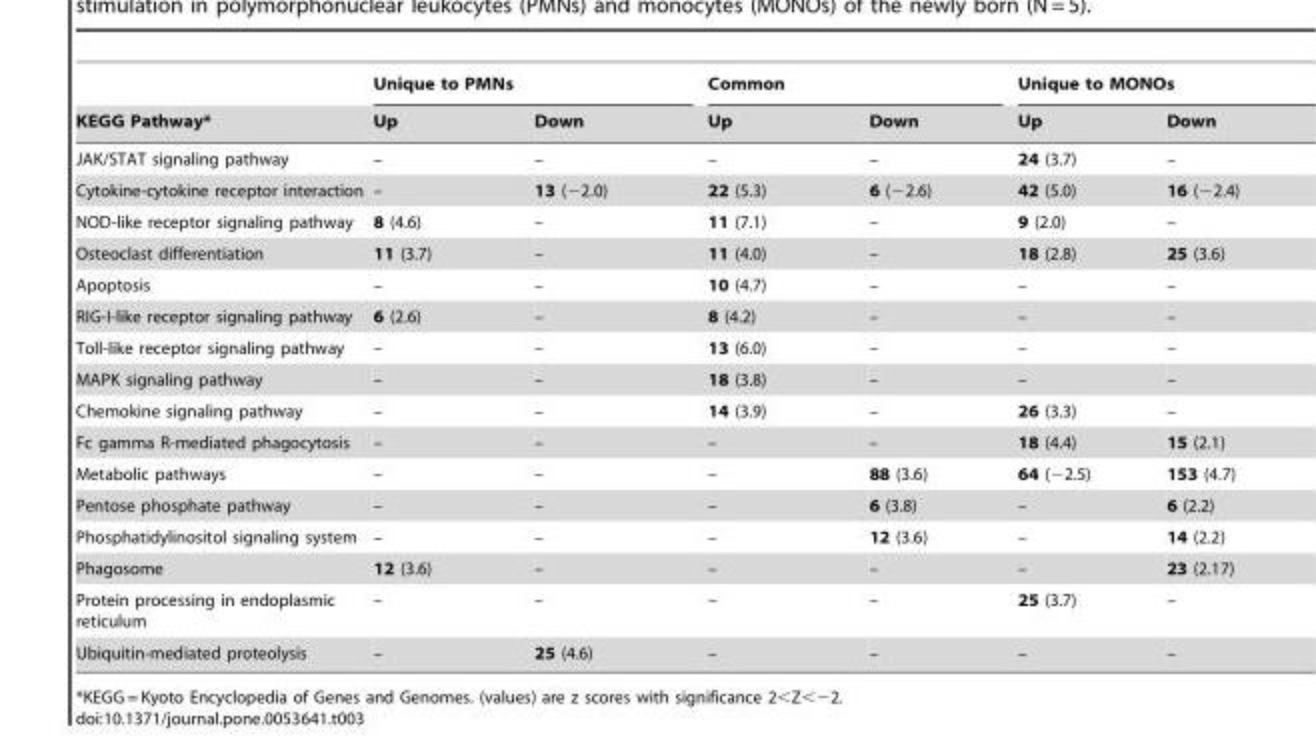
<table><thead><tr><td rowspan="2">KEGG Pathway*</td><td colspan="2">Unique to PMNs</td><td colspan="2">Common</td><td colspan="2">Unique to MONOs</td></tr><tr><td>Up</td><td>Down</td><td>Up</td><td>Down</td><td>Up</td><td>Down</td></tr></thead><tbody><tr><td>JAK/STAT signaling pathway</td><td>–</td><td>–</td><td>–</td><td>–</td><td>24 (3.7)</td><td>–</td></tr><tr><td>Cytokine-cytokine receptor interaction</td><td>–</td><td>13 (−2.0)</td><td>22 (5.3)</td><td>6 (−2.6)</td><td>42 (5.0)</td><td>16 (−2.4)</td></tr><tr><td>NOD-like receptor signaling pathway</td><td>8 (4.6)</td><td>–</td><td>11 (7.1)</td><td>–</td><td>9 (2.0)</td><td>–</td></tr><tr><td>Osteoclast differentiation</td><td>11 (3.7)</td><td>–</td><td>11 (4.0)</td><td>–</td><td>18 (2.8)</td><td>25 (3.6)</td></tr><tr><td>Apoptosis</td><td>–</td><td>–</td><td>10 (4.7)</td><td>–</td><td>–</td><td>–</td></tr><tr><td>RIG-I-like receptor signaling pathway</td><td>6 (2.6)</td><td>–</td><td>8 (4.2)</td><td>–</td><td>–</td><td>–</td></tr><tr><td>Toll-like receptor signaling pathway</td><td>–</td><td>–</td><td>13 (6.0)</td><td>–</td><td>–</td><td>–</td></tr><tr><td>MAPK signaling pathway</td><td>–</td><td>–</td><td>18 (3.8)</td><td>–</td><td>–</td><td>–</td></tr><tr><td>Chemokine signaling pathway</td><td>–</td><td>–</td><td>14 (3.9)</td><td>–</td><td>26 (3.3)</td><td>–</td></tr><tr><td>Fc gamma R-mediated phagocytosis</td><td>–</td><td>–</td><td>–</td><td>–</td><td>18 (4.4)</td><td>15 (2.1)</td></tr><tr><td>Metabolic pathways</td><td>–</td><td>–</td><td>–</td><td>88 (3.6)</td><td>64 (−2.5)</td><td>153 (4.7)</td></tr><tr><td>Pentose phosphate pathway</td><td>–</td><td>–</td><td>–</td><td>6 (3.8)</td><td>–</td><td>6 (2.2)</td></tr><tr><td>Phosphatidylinositol signaling system</td><td>–</td><td>–</td><td>–</td><td>12 (3.6)</td><td>–</td><td>14 (2.2)</td></tr><tr><td>Phagosome</td><td>12 (3.6)</td><td>–</td><td>–</td><td>–</td><td>–</td><td>23 (2.17)</td></tr><tr><td>Protein processing in endoplasmic reticulum</td><td>–</td><td>–</td><td>–</td><td>–</td><td>25 (3.7)</td><td>–</td></tr><tr><td>Ubiquitin-mediated proteolysis</td><td>–</td><td>25 (4.6)</td><td>–</td><td>–</td><td>–</td><td>–</td></tr></tbody></table>